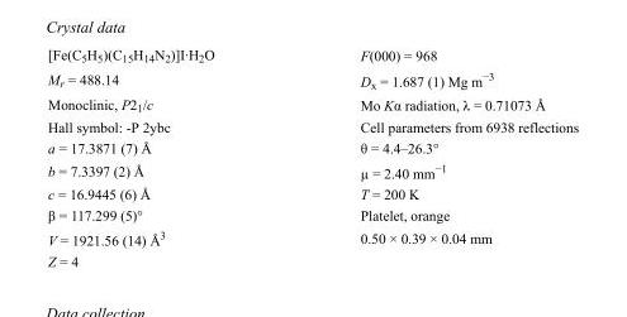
<table><tbody><tr><td>[Fe(C<sub>5</sub>H<sub>5</sub>)(C<sub>15</sub>H<sub>14</sub>N<sub>2</sub>)]I·H<sub>2</sub>O</td><td>F(000) = 968</td></tr><tr><td>M<sub>r</sub> = 488.14</td><td>D<sub>x</sub> = 1.687 (1) Mg m<sup>−3</sup></td></tr><tr><td>Monoclinic, P2<sub>1</sub>/c</td><td>Mo Kα radiation, λ = 0.71073 Å</td></tr><tr><td>Hall symbol: -P 2ybc</td><td>Cell parameters from 6938 reflections</td></tr><tr><td>a = 17.3871 (7) Å</td><td>θ = 4.4–26.3°</td></tr><tr><td>b = 7.3397 (2) Å</td><td>µ = 2.40 mm<sup>−1</sup></td></tr><tr><td>c = 16.9445 (6) Å</td><td>T = 200 K</td></tr><tr><td>β = 117.299 (5)°</td><td>Platelet, orange</td></tr><tr><td>V = 1921.56 (14) Å<sup>3</sup></td><td>0.50 × 0.39 × 0.04 mm</td></tr><tr><td>Z = 4</td><td></td></tr></tbody></table>